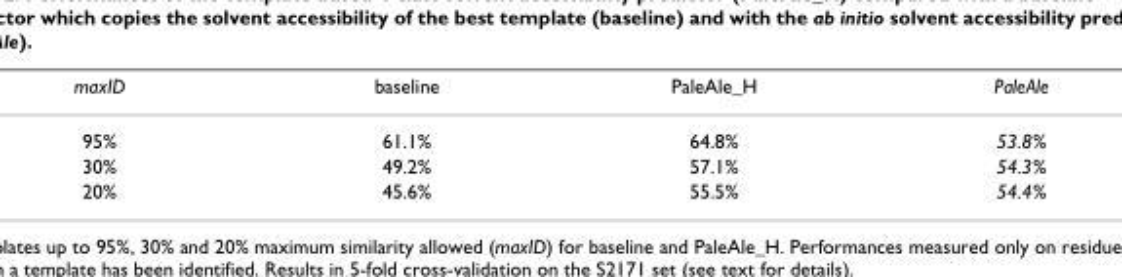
<table><thead><tr><td>maxID</td><td>baseline</td><td>PaleAle_H</td><td>PaleAle</td></tr></thead><tbody><tr><td>95%</td><td>61.1%</td><td>64.8%</td><td>53.8%</td></tr><tr><td>30%</td><td>49.2%</td><td>57.1%</td><td>54.3%</td></tr><tr><td>20%</td><td>45.6%</td><td>55.5%</td><td>54.4%</td></tr></tbody></table>